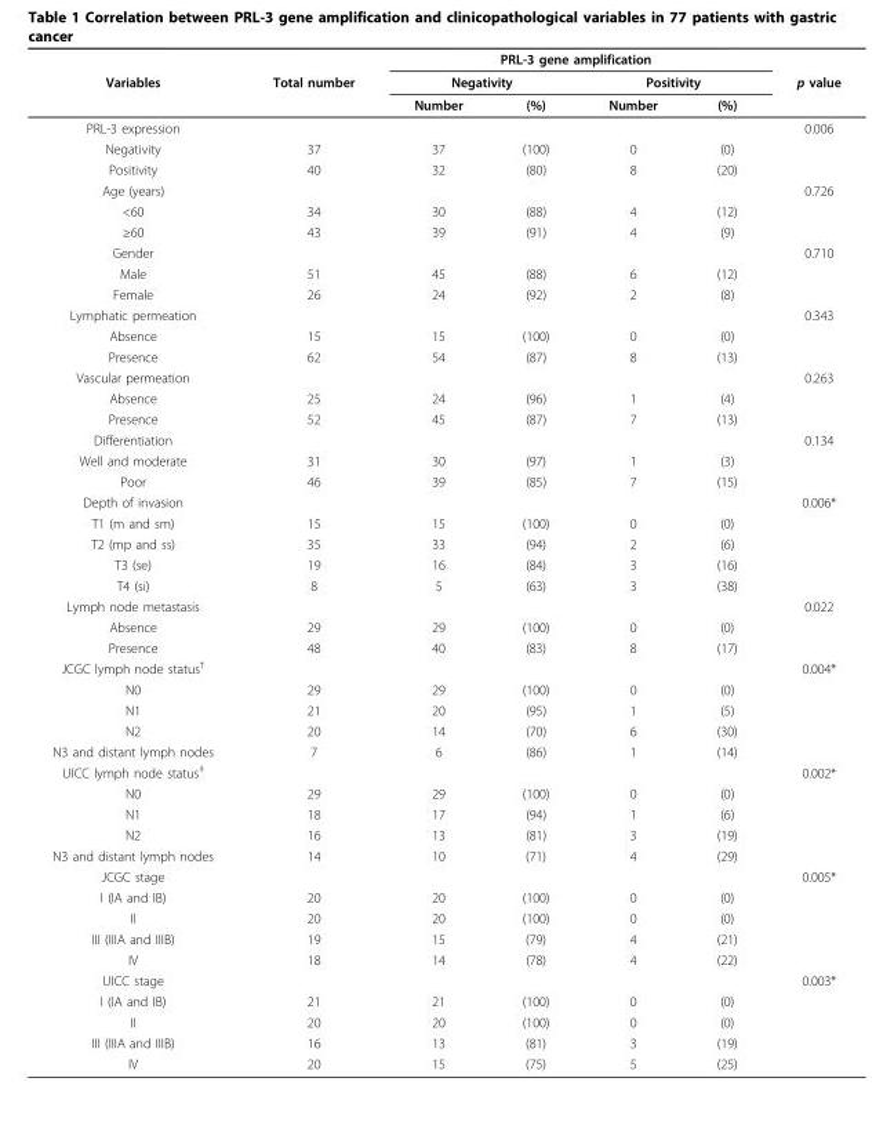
<table><thead><tr><td rowspan="3">Variables</td><td rowspan="3">Total number</td><td colspan="4">PRL-3 gene amplification</td><td rowspan="3">p value</td></tr><tr><td colspan="2">Negativity</td><td colspan="2">Positivity</td></tr><tr><td>Number</td><td>(%)</td><td>Number</td><td>(%)</td></tr></thead><tbody><tr><td>PRL-3 expression</td><td></td><td></td><td></td><td></td><td></td><td>0.006</td></tr><tr><td>Negativity</td><td>37</td><td>37</td><td>(100)</td><td>0</td><td>(0)</td><td></td></tr><tr><td>Positivity</td><td>40</td><td>32</td><td>(80)</td><td>8</td><td>(20)</td><td></td></tr><tr><td>Age (years)</td><td></td><td></td><td></td><td></td><td></td><td>0.726</td></tr><tr><td>&lt;60</td><td>34</td><td>30</td><td>(88)</td><td>4</td><td>(12)</td><td></td></tr><tr><td>≥60</td><td>43</td><td>39</td><td>(91)</td><td>4</td><td>(9)</td><td></td></tr><tr><td>Gender</td><td></td><td></td><td></td><td></td><td></td><td>0.710</td></tr><tr><td>Male</td><td>51</td><td>45</td><td>(88)</td><td>6</td><td>(12)</td><td></td></tr><tr><td>Female</td><td>26</td><td>24</td><td>(92)</td><td>2</td><td>(8)</td><td></td></tr><tr><td>Lymphatic permeation</td><td></td><td></td><td></td><td></td><td></td><td>0.343</td></tr><tr><td>Absence</td><td>15</td><td>15</td><td>(100)</td><td>0</td><td>(0)</td><td></td></tr><tr><td>Presence</td><td>62</td><td>54</td><td>(87)</td><td>8</td><td>(13)</td><td></td></tr><tr><td>Vascular permeation</td><td></td><td></td><td></td><td></td><td></td><td>0.263</td></tr><tr><td>Absence</td><td>25</td><td>24</td><td>(96)</td><td>1</td><td>(4)</td><td></td></tr><tr><td>Presence</td><td>52</td><td>45</td><td>(87)</td><td>7</td><td>(13)</td><td></td></tr><tr><td>Differentiation</td><td></td><td></td><td></td><td></td><td></td><td>0.134</td></tr><tr><td>Well and moderate</td><td>31</td><td>30</td><td>(97)</td><td>1</td><td>(3)</td><td></td></tr><tr><td>Poor</td><td>46</td><td>39</td><td>(85)</td><td>7</td><td>(15)</td><td></td></tr><tr><td>Depth of invasion</td><td></td><td></td><td></td><td></td><td></td><td>0.006*</td></tr><tr><td>T1 (m and sm)</td><td>15</td><td>15</td><td>(100)</td><td>0</td><td>(0)</td><td></td></tr><tr><td>T2 (mp and ss)</td><td>35</td><td>33</td><td>(94)</td><td>2</td><td>(6)</td><td></td></tr><tr><td>T3 (se)</td><td>19</td><td>16</td><td>(84)</td><td>3</td><td>(16)</td><td></td></tr><tr><td>T4 (si)</td><td>8</td><td>5</td><td>(63)</td><td>3</td><td>(38)</td><td></td></tr><tr><td>Lymph node metastasis</td><td></td><td></td><td></td><td></td><td></td><td>0.022</td></tr><tr><td>Absence</td><td>29</td><td>29</td><td>(100)</td><td>0</td><td>(0)</td><td></td></tr><tr><td>Presence</td><td>48</td><td>40</td><td>(83)</td><td>8</td><td>(17)</td><td></td></tr><tr><td>JCGC lymph node status<sup>†</sup></td><td></td><td></td><td></td><td></td><td></td><td>0.004*</td></tr><tr><td>N0</td><td>29</td><td>29</td><td>(100)</td><td>0</td><td>(0)</td><td></td></tr><tr><td>N1</td><td>21</td><td>20</td><td>(95)</td><td>1</td><td>(5)</td><td></td></tr><tr><td>N2</td><td>20</td><td>14</td><td>(70)</td><td>6</td><td>(30)</td><td></td></tr><tr><td>N3 and distant lymph nodes</td><td>7</td><td>6</td><td>(86)</td><td>1</td><td>(14)</td><td></td></tr><tr><td>UICC lymph node status<sup>‡</sup></td><td></td><td></td><td></td><td></td><td></td><td>0.002*</td></tr><tr><td>N0</td><td>29</td><td>29</td><td>(100)</td><td>0</td><td>(0)</td><td></td></tr><tr><td>N1</td><td>18</td><td>17</td><td>(94)</td><td>1</td><td>(6)</td><td></td></tr><tr><td>N2</td><td>16</td><td>13</td><td>(81)</td><td>3</td><td>(19)</td><td></td></tr><tr><td>N3 and distant lymph nodes</td><td>14</td><td>10</td><td>(71)</td><td>4</td><td>(29)</td><td></td></tr><tr><td>JCGC stage</td><td></td><td></td><td></td><td></td><td></td><td>0.005*</td></tr><tr><td>I (IA and IB)</td><td>20</td><td>20</td><td>(100)</td><td>0</td><td>(0)</td><td></td></tr><tr><td>II</td><td>20</td><td>20</td><td>(100)</td><td>0</td><td>(0)</td><td></td></tr><tr><td>III (IIIA and IIIB)</td><td>19</td><td>15</td><td>(79)</td><td>4</td><td>(21)</td><td></td></tr><tr><td>IV</td><td>18</td><td>14</td><td>(78)</td><td>4</td><td>(22)</td><td></td></tr><tr><td>UICC stage</td><td></td><td></td><td></td><td></td><td></td><td>0.003*</td></tr><tr><td>I (IA and IB)</td><td>21</td><td>21</td><td>(100)</td><td>0</td><td>(0)</td><td></td></tr><tr><td>II</td><td>20</td><td>20</td><td>(100)</td><td>0</td><td>(0)</td><td></td></tr><tr><td>III (IIIA and IIIB)</td><td>16</td><td>13</td><td>(81)</td><td>3</td><td>(19)</td><td></td></tr><tr><td>IV</td><td>20</td><td>15</td><td>(75)</td><td>5</td><td>(25)</td><td></td></tr></tbody></table>